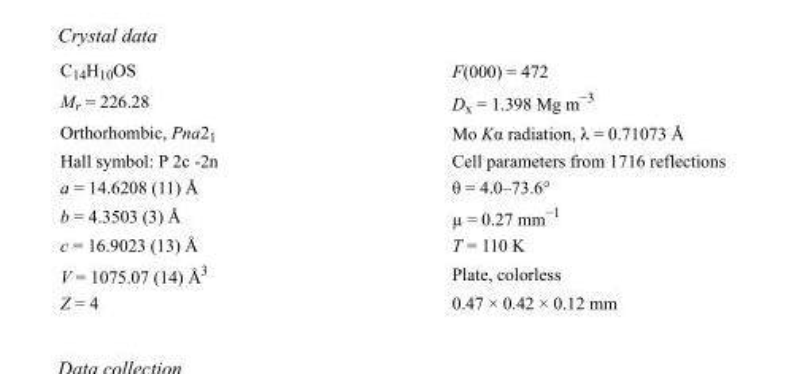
<table><tbody><tr><td>C<sub>14</sub>H<sub>10</sub>OS</td><td>F(000) = 472</td></tr><tr><td>M<sub>r</sub> = 226.28</td><td>D<sub>x</sub> = 1.398 Mg m<sup>−3</sup></td></tr><tr><td>Orthorhombic, Pna2<sub>1</sub></td><td>Mo Kα radiation, λ = 0.71073 Å</td></tr><tr><td>Hall symbol: P 2c -2n</td><td>Cell parameters from 1716 reflections</td></tr><tr><td>a = 14.6208 (11) Å</td><td>θ = 4.0–73.6°</td></tr><tr><td>b = 4.3503 (3) Å</td><td>µ = 0.27 mm<sup>−1</sup></td></tr><tr><td>c = 16.9023 (13) Å</td><td>T = 110 K</td></tr><tr><td>V = 1075.07 (14) Å<sup>3</sup></td><td>Plate, colorless</td></tr><tr><td>Z = 4</td><td>0.47 × 0.42 × 0.12 mm</td></tr></tbody></table>